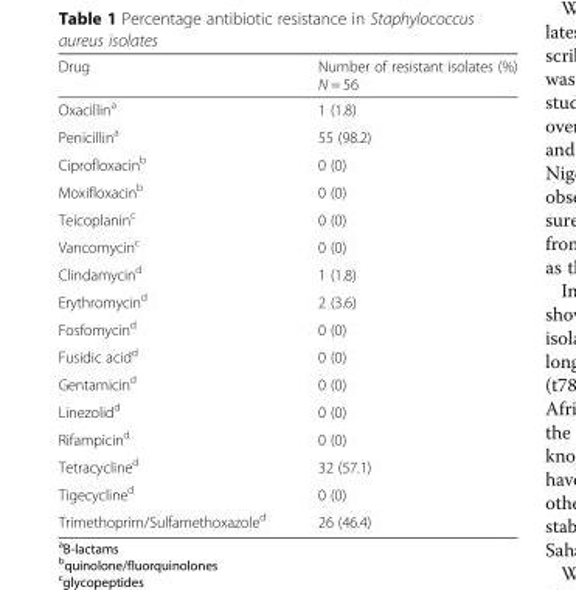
<table><thead><tr><td>Drug</td><td>Number of resistant isolates (%) N = 56</td></tr></thead><tbody><tr><td>Oxacillin<sup>a</sup></td><td>1 (1.8)</td></tr><tr><td>Penicillin<sup>a</sup></td><td>55 (98.2)</td></tr><tr><td>Ciprofloxacin<sup>b</sup></td><td>0 (0)</td></tr><tr><td>Moxifloxacin<sup>b</sup></td><td>0 (0)</td></tr><tr><td>Teicoplanin<sup>c</sup></td><td>0 (0)</td></tr><tr><td>Vancomycin<sup>c</sup></td><td>0 (0)</td></tr><tr><td>Clindamycin<sup>d</sup></td><td>1 (1.8)</td></tr><tr><td>Erythromycin<sup>d</sup></td><td>2 (3.6)</td></tr><tr><td>Fosfomycin<sup>d</sup></td><td>0 (0)</td></tr><tr><td>Fusidic acid<sup>d</sup></td><td>0 (0)</td></tr><tr><td>Gentamicin<sup>d</sup></td><td>0 (0)</td></tr><tr><td>Linezolid<sup>d</sup></td><td>0 (0)</td></tr><tr><td>Rifampicin<sup>d</sup></td><td>0 (0)</td></tr><tr><td>Tetracycline<sup>d</sup></td><td>32 (57.1)</td></tr><tr><td>Tigecycline<sup>d</sup></td><td>0 (0)</td></tr><tr><td>Trimethoprim/Sulfamethoxazole<sup>d</sup></td><td>26 (46.4)</td></tr></tbody></table>